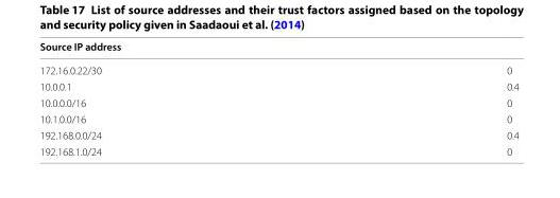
<table><thead><tr><td>Source IP address</td><td></td></tr></thead><tbody><tr><td>172.16.0.22/30</td><td>0</td></tr><tr><td>10.0.0.1</td><td>0.4</td></tr><tr><td>10.0.0.0/16</td><td>0</td></tr><tr><td>10.1.0.0/16</td><td>0</td></tr><tr><td>192.168.0.0/24</td><td>0.4</td></tr><tr><td>192.168.1.0/24</td><td>0</td></tr></tbody></table>